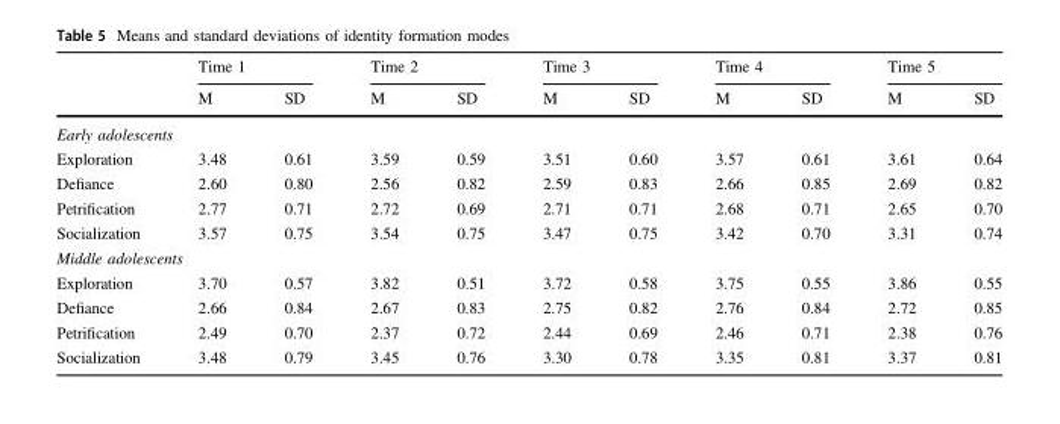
<table><thead><tr><td rowspan="2"></td><td colspan="2">Time 1</td><td colspan="2">Time 2</td><td colspan="2">Time 3</td><td colspan="2">Time 4</td><td colspan="2">Time 5</td></tr><tr><td>M</td><td>SD</td><td>M</td><td>SD</td><td>M</td><td>SD</td><td>M</td><td>SD</td><td>M</td><td>SD</td></tr></thead><tbody><tr><td colspan="11">Early adolescents</td></tr><tr><td>Exploration</td><td>3.48</td><td>0.61</td><td>3.59</td><td>0.59</td><td>3.51</td><td>0.60</td><td>3.57</td><td>0.61</td><td>3.61</td><td>0.64</td></tr><tr><td>Defiance</td><td>2.60</td><td>0.80</td><td>2.56</td><td>0.82</td><td>2.59</td><td>0.83</td><td>2.66</td><td>0.85</td><td>2.69</td><td>0.82</td></tr><tr><td>Petrification</td><td>2.77</td><td>0.71</td><td>2.72</td><td>0.69</td><td>2.71</td><td>0.71</td><td>2.68</td><td>0.71</td><td>2.65</td><td>0.70</td></tr><tr><td>Socialization</td><td>3.57</td><td>0.75</td><td>3.54</td><td>0.75</td><td>3.47</td><td>0.75</td><td>3.42</td><td>0.70</td><td>3.31</td><td>0.74</td></tr><tr><td colspan="11">Middle adolescents</td></tr><tr><td>Exploration</td><td>3.70</td><td>0.57</td><td>3.82</td><td>0.51</td><td>3.72</td><td>0.58</td><td>3.75</td><td>0.55</td><td>3.86</td><td>0.55</td></tr><tr><td>Defiance</td><td>2.66</td><td>0.84</td><td>2.67</td><td>0.83</td><td>2.75</td><td>0.82</td><td>2.76</td><td>0.84</td><td>2.72</td><td>0.85</td></tr><tr><td>Petrification</td><td>2.49</td><td>0.70</td><td>2.37</td><td>0.72</td><td>2.44</td><td>0.69</td><td>2.46</td><td>0.71</td><td>2.38</td><td>0.76</td></tr><tr><td>Socialization</td><td>3.48</td><td>0.79</td><td>3.45</td><td>0.76</td><td>3.30</td><td>0.78</td><td>3.35</td><td>0.81</td><td>3.37</td><td>0.81</td></tr></tbody></table>